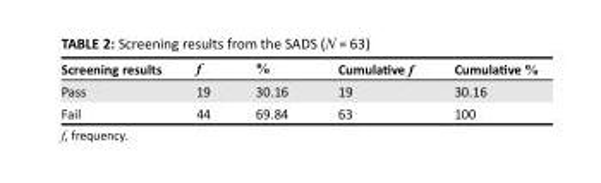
<table><thead><tr><td>Screening results</td><td>f</td><td>%</td><td>Cumulative f</td><td>Cumulative %</td></tr></thead><tbody><tr><td>Pass</td><td>19</td><td>30.16</td><td>19</td><td>30.16</td></tr><tr><td>Fail</td><td>44</td><td>69.84</td><td>63</td><td>100</td></tr></tbody></table>